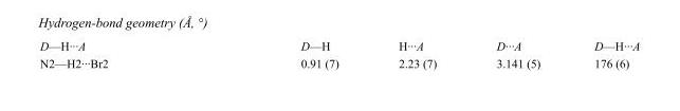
<table><tbody><tr><td>D—H···A</td><td>D—H</td><td>H···A</td><td>D···A</td><td>D—H···A</td></tr><tr><td>N2—H2···Br2</td><td>0.91 (7)</td><td>2.23 (7)</td><td>3.141 (5)</td><td>176 (6)</td></tr></tbody></table>